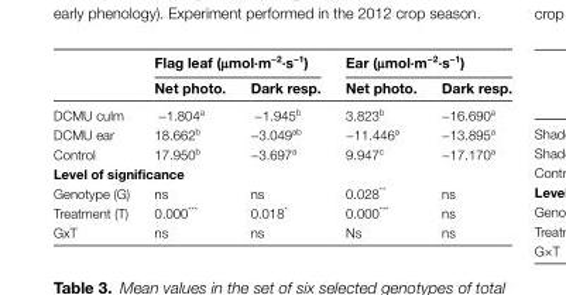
<table><thead><tr><td rowspan="2"></td><td colspan="2">Flag leaf (μmol·m<sup>−2</sup>·s<sup>−1</sup>)</td><td colspan="2">Ear (μmol·m<sup>−2</sup>·s<sup>−1</sup>)</td></tr><tr><td>Net photo.</td><td>Dark resp.</td><td>Net photo.</td><td>Dark resp.</td></tr></thead><tbody><tr><td>DCMU culm</td><td>−1.804<sup>a</sup></td><td>−1.945<sup>b</sup></td><td>3.823<sup>b</sup></td><td>−16.690<sup>a</sup></td></tr><tr><td>DCMU ear</td><td>18.662<sup>b</sup></td><td>−3.049<sup>ab</sup></td><td>−11.446<sup>a</sup></td><td>−13.895<sup>a</sup></td></tr><tr><td>Control</td><td>17.950<sup>b</sup></td><td>−3.697<sup>a</sup></td><td>9.947<sup>c</sup></td><td>−17.170<sup>a</sup></td></tr><tr><td colspan="5">Level of significance</td></tr><tr><td>Genotype (G)</td><td>ns</td><td>ns</td><td>0.028**</td><td>ns</td></tr><tr><td>Treatment (T)</td><td>0.000***</td><td>0.018*</td><td>0.000***</td><td>ns</td></tr><tr><td>GxT</td><td>ns</td><td>ns</td><td>Ns</td><td>ns</td></tr></tbody></table>